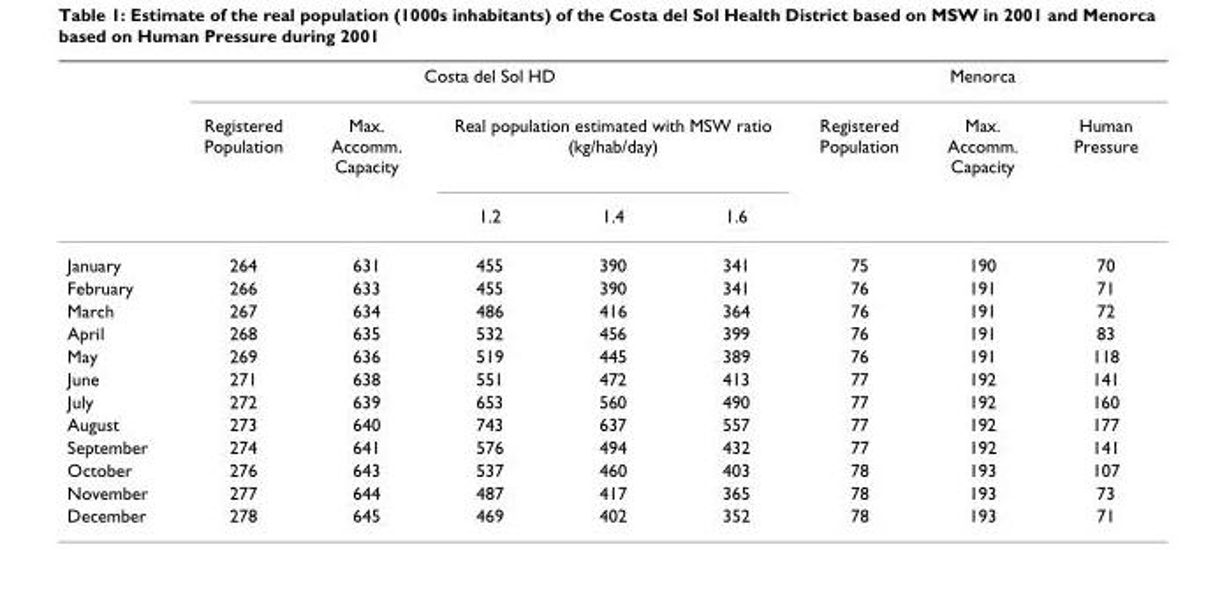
<table><thead><tr><td rowspan="3"></td><td colspan="5">Costa del Sol HD</td><td colspan="3">Menorca</td></tr><tr><td rowspan="2">Registered Population</td><td rowspan="2">Max. Accomm. Capacity</td><td colspan="3">Real population estimated with MSW ratio (kg/hab/day)</td><td rowspan="2">Registered Population</td><td rowspan="2">Max. Accomm. Capacity</td><td rowspan="2">Human Pressure</td></tr><tr><td>1.2</td><td>1.4</td><td>1.6</td></tr></thead><tbody><tr><td>January</td><td>264</td><td>631</td><td>455</td><td>390</td><td>341</td><td>75</td><td>190</td><td>70</td></tr><tr><td>February</td><td>266</td><td>633</td><td>455</td><td>390</td><td>341</td><td>76</td><td>191</td><td>71</td></tr><tr><td>March</td><td>267</td><td>634</td><td>486</td><td>416</td><td>364</td><td>76</td><td>191</td><td>72</td></tr><tr><td>April</td><td>268</td><td>635</td><td>532</td><td>456</td><td>399</td><td>76</td><td>191</td><td>83</td></tr><tr><td>May</td><td>269</td><td>636</td><td>519</td><td>445</td><td>389</td><td>76</td><td>191</td><td>118</td></tr><tr><td>June</td><td>271</td><td>638</td><td>551</td><td>472</td><td>413</td><td>77</td><td>192</td><td>141</td></tr><tr><td>July</td><td>272</td><td>639</td><td>653</td><td>560</td><td>490</td><td>77</td><td>192</td><td>160</td></tr><tr><td>August</td><td>273</td><td>640</td><td>743</td><td>637</td><td>557</td><td>77</td><td>192</td><td>177</td></tr><tr><td>September</td><td>274</td><td>641</td><td>576</td><td>494</td><td>432</td><td>77</td><td>192</td><td>141</td></tr><tr><td>October</td><td>276</td><td>643</td><td>537</td><td>460</td><td>403</td><td>78</td><td>193</td><td>107</td></tr><tr><td>November</td><td>277</td><td>644</td><td>487</td><td>417</td><td>365</td><td>78</td><td>193</td><td>73</td></tr><tr><td>December</td><td>278</td><td>645</td><td>469</td><td>402</td><td>352</td><td>78</td><td>193</td><td>71</td></tr></tbody></table>